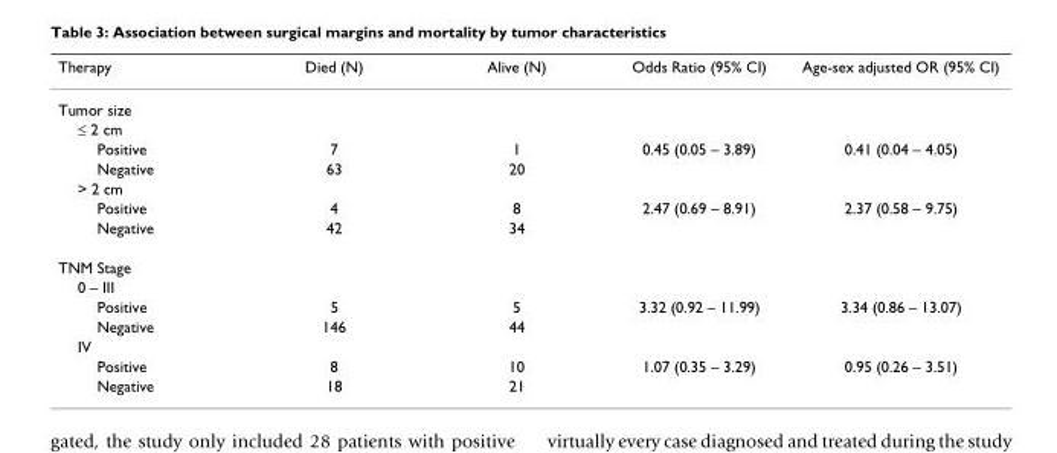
<table><thead><tr><td>Therapy</td><td>Died (N)</td><td>Alive (N)</td><td>Odds Ratio (95% CI)</td><td>Age-sex adjusted OR (95% CI)</td></tr></thead><tbody><tr><td colspan="5">Tumor size</td></tr><tr><td colspan="5">≤ 2 cm</td></tr><tr><td>Positive</td><td>7</td><td>1</td><td>0.45 (0.05 – 3.89)</td><td>0.41 (0.04 – 4.05)</td></tr><tr><td>Negative</td><td>63</td><td>20</td><td></td><td></td></tr><tr><td colspan="5">&gt; 2 cm</td></tr><tr><td>Positive</td><td>4</td><td>8</td><td>2.47 (0.69 – 8.91)</td><td>2.37 (0.58 – 9.75)</td></tr><tr><td>Negative</td><td>42</td><td>34</td><td></td><td></td></tr><tr><td colspan="5">TNM Stage</td></tr><tr><td colspan="5">0 – III</td></tr><tr><td>Positive</td><td>5</td><td>5</td><td>3.32 (0.92 – 11.99)</td><td>3.34 (0.86 – 13.07)</td></tr><tr><td>Negative</td><td>146</td><td>44</td><td></td><td></td></tr><tr><td colspan="5">IV</td></tr><tr><td>Positive</td><td>8</td><td>10</td><td>1.07 (0.35 – 3.29)</td><td>0.95 (0.26 – 3.51)</td></tr><tr><td>Negative</td><td>18</td><td>21</td><td></td><td></td></tr></tbody></table>